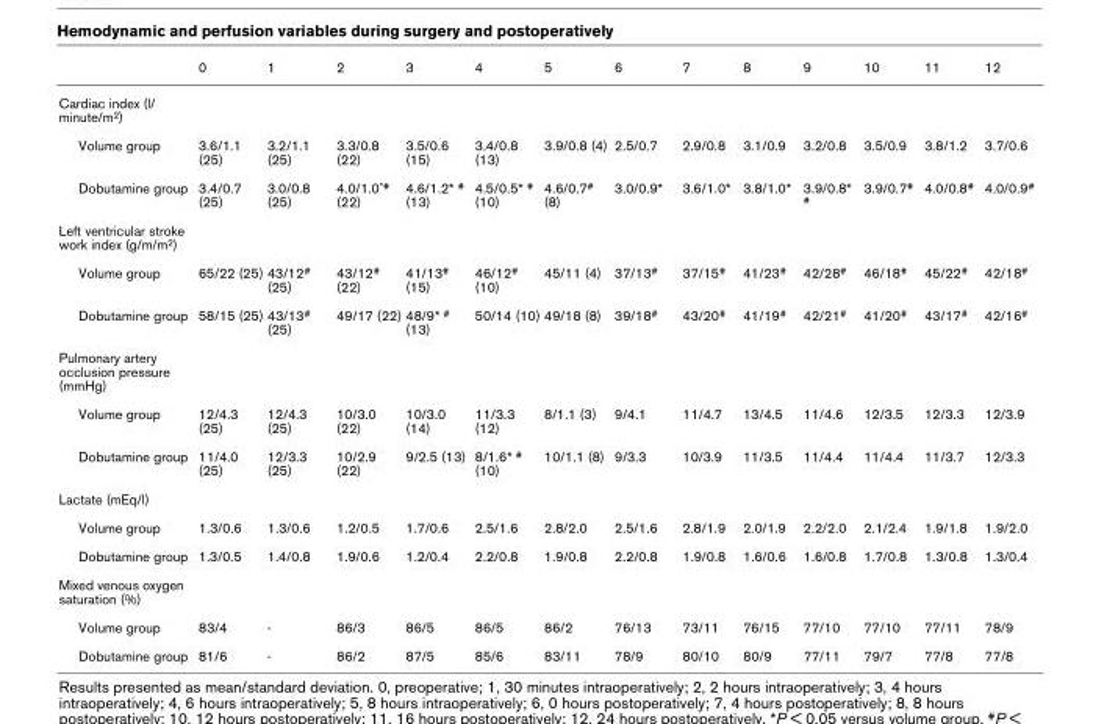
<table><thead><tr><td></td><td>0</td><td>1</td><td>2</td><td>3</td><td>4</td><td>5</td><td>6</td><td>7</td><td>8</td><td>9</td><td>10</td><td>11</td><td>12</td></tr></thead><tbody><tr><td colspan="14">Cardiac index (l/ minute/m2)</td></tr><tr><td>Volume group</td><td>3.6/1.1 (25)</td><td>3.2/1.1 (25)</td><td>3.3/0.8 (22)</td><td>3.5/0.6 (15)</td><td>3.4/0.8 (13)</td><td>3.9/0.8 (4)</td><td>2.5/0.7</td><td>2.9/0.8</td><td>3.1/0.9</td><td>3.2/0.8</td><td>3.5/0.9</td><td>3.8/1.2</td><td>3.7/0.6</td></tr><tr><td>Dobutamine group</td><td>3.4/0.7 (25)</td><td>3.0/0.8 (25)</td><td>4.0/1.0*# (22)</td><td>4.6/1.2* # (13)</td><td>4.5/0.5* # (10)</td><td>4.6/0.7# (8)</td><td>3.0/0.9*</td><td>3.6/1.0*</td><td>3.8/1.0*</td><td>3.9/0.8* #</td><td>3.9/0.7#</td><td>4.0/0.8#</td><td>4.0/0.9#</td></tr><tr><td colspan="14">Left ventricular stroke work index (g/m/m2)</td></tr><tr><td>Volume group</td><td>65/22 (25)</td><td>43/12# (25)</td><td>43/12# (22)</td><td>41/13# (15)</td><td>46/12# (10)</td><td>45/11 (4)</td><td>37/13#</td><td>37/15#</td><td>41/23#</td><td>42/28#</td><td>46/18#</td><td>45/22#</td><td>42/18#</td></tr><tr><td>Dobutamine group</td><td>58/15 (25)</td><td>43/13# (25)</td><td>49/17 (22)</td><td>48/9* # (13)</td><td>50/14 (10)</td><td>49/18 (8)</td><td>39/18#</td><td>43/20#</td><td>41/19#</td><td>42/21#</td><td>41/20#</td><td>43/17#</td><td>42/16#</td></tr><tr><td colspan="14">Pulmonary artery occlusion pressure (mmHg)</td></tr><tr><td>Volume group</td><td>12/4.3 (25)</td><td>12/4.3 (25)</td><td>10/3.0 (22)</td><td>10/3.0 (14)</td><td>11/3.3 (12)</td><td>8/1.1 (3)</td><td>9/4.1</td><td>11/4.7</td><td>13/4.5</td><td>11/4.6</td><td>12/3.5</td><td>12/3.3</td><td>12/3.9</td></tr><tr><td>Dobutamine group</td><td>11/4.0 (25)</td><td>12/3.3 (25)</td><td>10/2.9 (22)</td><td>9/2.5 (13)</td><td>8/1.6* # (10)</td><td>10/1.1 (8)</td><td>9/3.3</td><td>10/3.9</td><td>11/3.5</td><td>11/4.4</td><td>11/4.4</td><td>11/3.7</td><td>12/3.3</td></tr><tr><td colspan="14">Lactate (mEq/l)</td></tr><tr><td>Volume group</td><td>1.3/0.6</td><td>1.3/0.6</td><td>1.2/0.5</td><td>1.7/0.6</td><td>2.5/1.6</td><td>2.8/2.0</td><td>2.5/1.6</td><td>2.8/1.9</td><td>2.0/1.9</td><td>2.2/2.0</td><td>2.1/2.4</td><td>1.9/1.8</td><td>1.9/2.0</td></tr><tr><td>Dobutamine group</td><td>1.3/0.5</td><td>1.4/0.8</td><td>1.9/0.6</td><td>1.2/0.4</td><td>2.2/0.8</td><td>1.9/0.8</td><td>2.2/0.8</td><td>1.9/0.8</td><td>1.6/0.6</td><td>1.6/0.8</td><td>1.7/0.8</td><td>1.3/0.8</td><td>1.3/0.4</td></tr><tr><td colspan="14">Mixed venous oxygen saturation (%)</td></tr><tr><td>Volume group</td><td>83/4</td><td>-</td><td>86/3</td><td>86/5</td><td>86/5</td><td>86/2</td><td>76/13</td><td>73/11</td><td>76/15</td><td>77/10</td><td>77/10</td><td>77/11</td><td>78/9</td></tr><tr><td>Dobutamine group</td><td>81/6</td><td>-</td><td>86/2</td><td>87/5</td><td>85/6</td><td>83/11</td><td>78/9</td><td>80/10</td><td>80/9</td><td>77/11</td><td>79/7</td><td>77/8</td><td>77/8</td></tr></tbody></table>